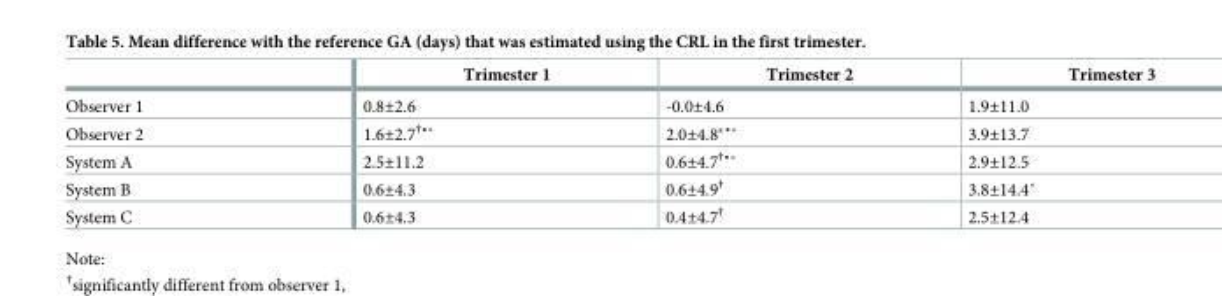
<table><thead><tr><td></td><td>Trimester 1</td><td>Trimester 2</td><td>Trimester 3</td></tr></thead><tbody><tr><td>Observer 1</td><td>0.8±2.6</td><td>-0.0±4.6</td><td>1.9±11.0</td></tr><tr><td>Observer 2</td><td>1.6±2.7†•˚</td><td>2.0±4.8*•˚</td><td>3.9±13.7</td></tr><tr><td>System A</td><td>2.5±11.2</td><td>0.6±4.7†•˚</td><td>2.9±12.5</td></tr><tr><td>System B</td><td>0.6±4.3</td><td>0.6±4.9<sup>†</sup></td><td>3.8±14.4˚</td></tr><tr><td>System C</td><td>0.6±4.3</td><td>0.4±4.7<sup>†</sup></td><td>2.5±12.4</td></tr></tbody></table>